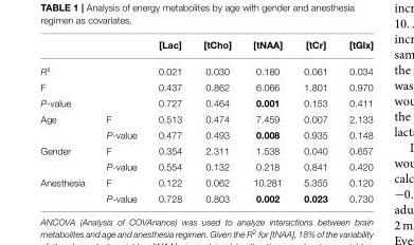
<table><thead><tr><td></td><td></td><td>[Lac]</td><td>[tCho]</td><td>[tNAA]</td><td>[tCr]</td><td>[tGlx]</td></tr></thead><tbody><tr><td colspan="2">R²</td><td>0.021</td><td>0.030</td><td>0.180</td><td>0.061</td><td>0.034</td></tr><tr><td colspan="2">F</td><td>0.437</td><td>0.862</td><td>6.066</td><td>1.801</td><td>0.970</td></tr><tr><td colspan="2">P-value</td><td>0.727</td><td>0.464</td><td>0.001</td><td>0.153</td><td>0.411</td></tr><tr><td rowspan="2">Age</td><td>F</td><td>0.513</td><td>0.474</td><td>7.459</td><td>0.007</td><td>2.133</td></tr><tr><td>P-value</td><td>0.477</td><td>0.493</td><td>0.008</td><td>0.935</td><td>0.148</td></tr><tr><td rowspan="2">Gender</td><td>F</td><td>0.354</td><td>2.311</td><td>1.538</td><td>0.040</td><td>0.657</td></tr><tr><td>P-value</td><td>0.554</td><td>0.132</td><td>0.218</td><td>0.841</td><td>0.420</td></tr><tr><td rowspan="2">Anesthesia</td><td>F</td><td>0.122</td><td>0.062</td><td>10.281</td><td>5.355</td><td>0.120</td></tr><tr><td>P-value</td><td>0.728</td><td>0.803</td><td>0.002</td><td>0.023</td><td>0.730</td></tr></tbody></table>